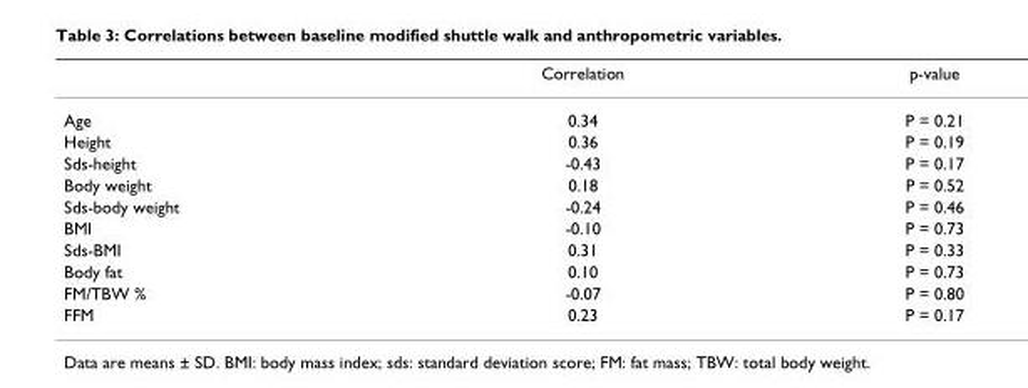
<table><thead><tr><td></td><td>Correlation</td><td>p-value</td></tr></thead><tbody><tr><td>Age</td><td>0.34</td><td>P = 0.21</td></tr><tr><td>Height</td><td>0.36</td><td>P = 0.19</td></tr><tr><td>Sds-height</td><td>-0.43</td><td>P = 0.17</td></tr><tr><td>Body weight</td><td>0.18</td><td>P = 0.52</td></tr><tr><td>Sds-body weight</td><td>-0.24</td><td>P = 0.46</td></tr><tr><td>BMI</td><td>-0.10</td><td>P = 0.73</td></tr><tr><td>Sds-BMI</td><td>0.31</td><td>P = 0.33</td></tr><tr><td>Body fat</td><td>0.10</td><td>P = 0.73</td></tr><tr><td>FM/TBW %</td><td>-0.07</td><td>P = 0.80</td></tr><tr><td>FFM</td><td>0.23</td><td>P = 0.17</td></tr></tbody></table>